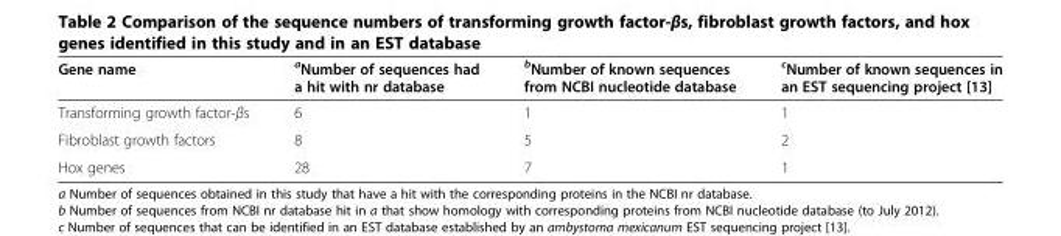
<table><thead><tr><td>Gene name</td><td><sup>a</sup>Number of sequences had a hit with nr database</td><td><sup>b</sup>Number of known sequences from NCBI nucleotide database</td><td><sup>c</sup>Number of known sequences in an EST sequencing project [13]</td></tr></thead><tbody><tr><td>Transforming growth factor-βs</td><td>6</td><td>1</td><td>1</td></tr><tr><td>Fibroblast growth factors</td><td>8</td><td>5</td><td>2</td></tr><tr><td>Hox genes</td><td>28</td><td>7</td><td>1</td></tr></tbody></table>